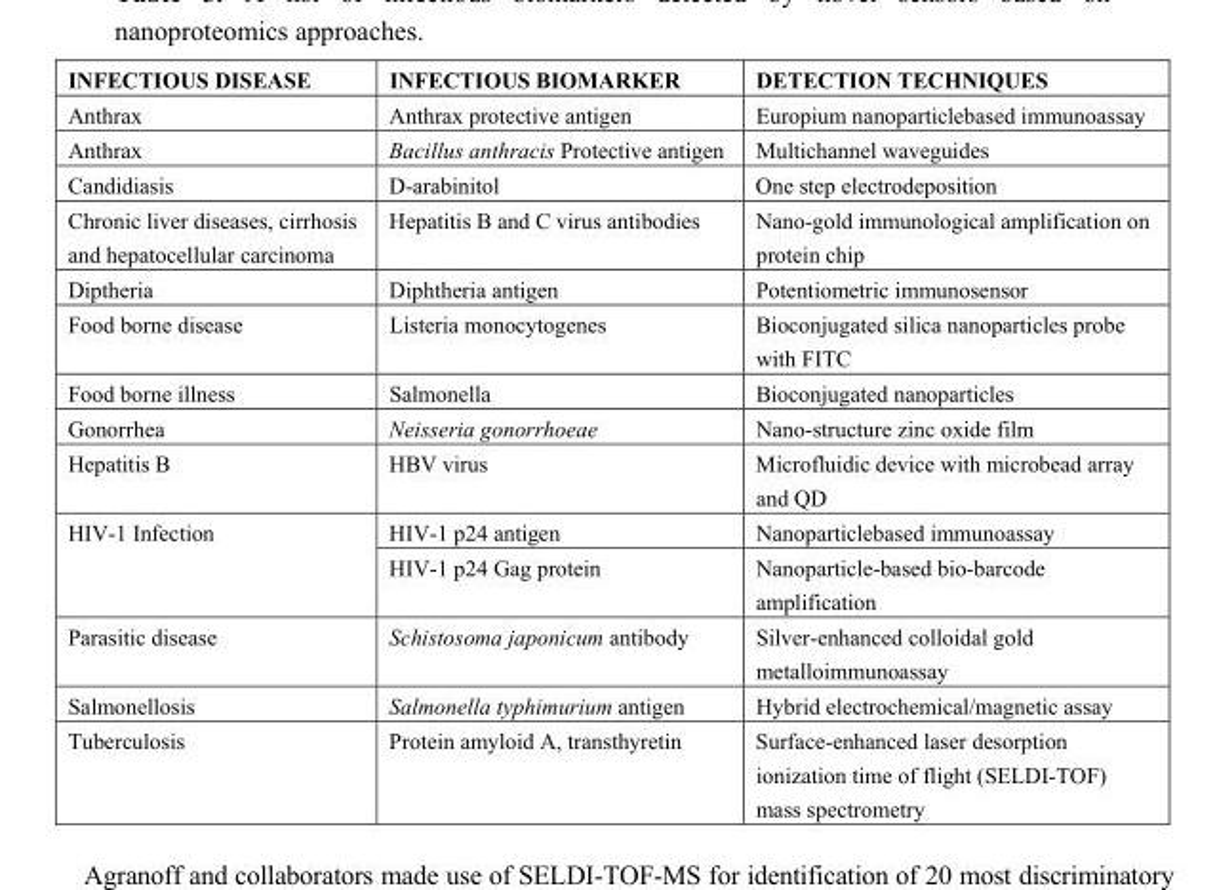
<table><thead><tr><td>INFECTIOUS DISEASE</td><td>INFECTIOUS BIOMARKER</td><td>DETECTION TECHNIQUES</td></tr></thead><tbody><tr><td>Anthrax</td><td>Anthrax protective antigen</td><td>Europium nanoparticlebased immunoassay</td></tr><tr><td>Anthrax</td><td>Bacillus anthracis Protective antigen</td><td>Multichannel waveguides</td></tr><tr><td>Candidiasis</td><td>D-arabinitol</td><td>One step electrodeposition</td></tr><tr><td>Chronic liver diseases, cirrhosis and hepatocellular carcinoma</td><td>Hepatitis B and C virus antibodies</td><td>Nano-gold immunological amplification on protein chip</td></tr><tr><td>Diptheria</td><td>Diphtheria antigen</td><td>Potentiometric immunosensor</td></tr><tr><td>Food borne disease</td><td>Listeria monocytogenes</td><td>Bioconjugated silica nanoparticles probe with FITC</td></tr><tr><td>Food borne illness</td><td>Salmonella</td><td>Bioconjugated nanoparticles</td></tr><tr><td>Gonorrhea</td><td>Neisseria gonorrhoeae</td><td>Nano-structure zinc oxide film</td></tr><tr><td>Hepatitis B</td><td>HBV virus</td><td>Microfluidic device with microbead array and QD</td></tr><tr><td rowspan="2">HIV-1 Infection</td><td>HIV-1 p24 antigen</td><td>Nanoparticlebased immunoassay</td></tr><tr><td>HIV-1 p24 Gag protein</td><td>Nanoparticle-based bio-barcode amplification</td></tr><tr><td>Parasitic disease</td><td>Schistosoma japonicum antibody</td><td>Silver-enhanced colloidal gold metalloimmunoassay</td></tr><tr><td>Salmonellosis</td><td>Salmonella typhimurium antigen</td><td>Hybrid electrochemical/magnetic assay</td></tr><tr><td>Tuberculosis</td><td>Protein amyloid A, transthyretin</td><td>Surface-enhanced laser desorption ionization time of flight (SELDI-TOF) mass spectrometry</td></tr></tbody></table>